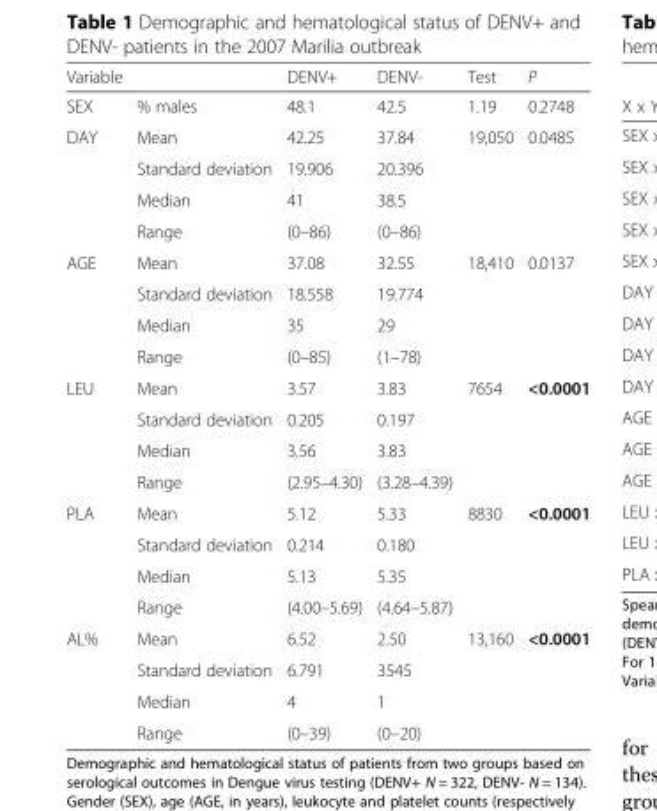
<table><thead><tr><td>Variable</td><td></td><td>DENV+</td><td>DENV-</td><td>Test</td><td>P</td></tr></thead><tbody><tr><td>SEX</td><td>% males</td><td>48.1</td><td>42.5</td><td>1.19</td><td>0.2748</td></tr><tr><td rowspan="4">DAY</td><td>Mean</td><td>42.25</td><td>37.84</td><td>19,050</td><td>0.0485</td></tr><tr><td>Standard deviation</td><td>19.906</td><td>20.396</td><td></td><td></td></tr><tr><td>Median</td><td>41</td><td>38.5</td><td></td><td></td></tr><tr><td>Range</td><td>(0–86)</td><td>(0–86)</td><td></td><td></td></tr><tr><td rowspan="4">AGE</td><td>Mean</td><td>37.08</td><td>32.55</td><td>18,410</td><td>0.0137</td></tr><tr><td>Standard deviation</td><td>18.558</td><td>19.774</td><td></td><td></td></tr><tr><td>Median</td><td>35</td><td>29</td><td></td><td></td></tr><tr><td>Range</td><td>(0–85)</td><td>(1–78)</td><td></td><td></td></tr><tr><td rowspan="4">LEU</td><td>Mean</td><td>3.57</td><td>3.83</td><td>7654</td><td>&lt;0.0001</td></tr><tr><td>Standard deviation</td><td>0.205</td><td>0.197</td><td></td><td></td></tr><tr><td>Median</td><td>3.56</td><td>3.83</td><td></td><td></td></tr><tr><td>Range</td><td>(2.95–4.30)</td><td>(3.28–4.39)</td><td></td><td></td></tr><tr><td rowspan="4">PLA</td><td>Mean</td><td>5.12</td><td>5.33</td><td>8830</td><td>&lt;0.0001</td></tr><tr><td>Standard deviation</td><td>0.214</td><td>0.180</td><td></td><td></td></tr><tr><td>Median</td><td>5.13</td><td>5.35</td><td></td><td></td></tr><tr><td>Range</td><td>(4.00–5.69)</td><td>(4.64–5.87)</td><td></td><td></td></tr><tr><td rowspan="4">AL%</td><td>Mean</td><td>6.52</td><td>2.50</td><td>13,160</td><td>&lt;0.0001</td></tr><tr><td>Standard deviation</td><td>6.791</td><td>3545</td><td></td><td></td></tr><tr><td>Median</td><td>4</td><td>1</td><td></td><td></td></tr><tr><td>Range</td><td>(0–39)</td><td>(0–20)</td><td></td><td></td></tr></tbody></table>